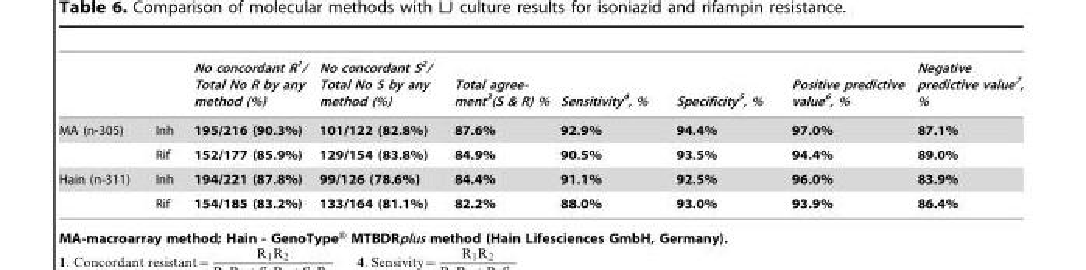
<table><thead><tr><td></td><td></td><td>No concordant R<sup>1</sup>/ Total No R by any method (%)</td><td>No concordant S<sup>2</sup>/ Total No S by any method (%)</td><td>Total agree- ment<sup>3</sup>(S &amp; R) %</td><td>Sensitivity<sup>4</sup>, %</td><td>Specificity<sup>5</sup>, %</td><td>Positive predictive value<sup>6</sup>, %</td><td>Negative predictive value<sup>7</sup>, %</td></tr></thead><tbody><tr><td rowspan="2">MA (n-305)</td><td>Inh</td><td>195/216 (90.3%)</td><td>101/122 (82.8%)</td><td>87.6%</td><td>92.9%</td><td>94.4%</td><td>97.0%</td><td>87.1%</td></tr><tr><td>Rif</td><td>152/177 (85.9%)</td><td>129/154 (83.8%)</td><td>84.9%</td><td>90.5%</td><td>93.5%</td><td>94.4%</td><td>89.0%</td></tr><tr><td rowspan="2">Hain (n-311)</td><td>Inh</td><td>194/221 (87.8%)</td><td>99/126 (78.6%)</td><td>84.4%</td><td>91.1%</td><td>92.5%</td><td>96.0%</td><td>83.9%</td></tr><tr><td>Rif</td><td>154/185 (83.2%)</td><td>133/164 (81.1%)</td><td>82.2%</td><td>88.0%</td><td>93.0%</td><td>93.9%</td><td>86.4%</td></tr></tbody></table>